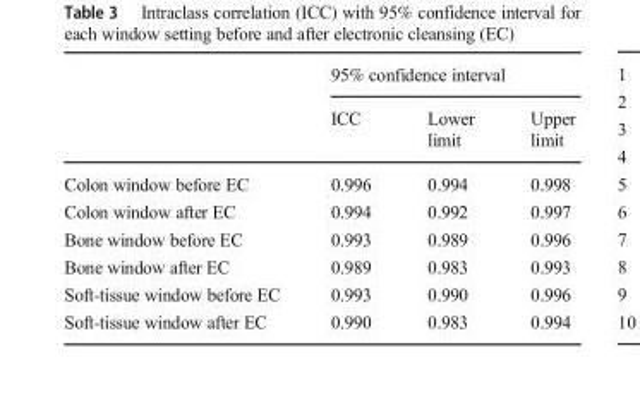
<table><thead><tr><td rowspan="2"></td><td colspan="3">95% confidence interval</td></tr><tr><td>ICC</td><td>Lower limit</td><td>Upper limit</td></tr></thead><tbody><tr><td>Colon window before EC</td><td>0.996</td><td>0.994</td><td>0.998</td></tr><tr><td>Colon window after EC</td><td>0.994</td><td>0.992</td><td>0.997</td></tr><tr><td>Bone window before EC</td><td>0.993</td><td>0.989</td><td>0.996</td></tr><tr><td>Bone window after EC</td><td>0.989</td><td>0.983</td><td>0.993</td></tr><tr><td>Soft-tissue window before EC</td><td>0.993</td><td>0.990</td><td>0.996</td></tr><tr><td>Soft-tissue window after EC</td><td>0.990</td><td>0.983</td><td>0.994</td></tr></tbody></table>